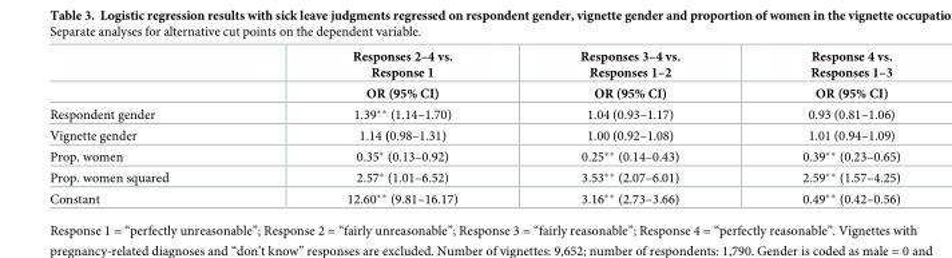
<table><thead><tr><td rowspan="2"></td><td rowspan="2">Responses 2–4 vs. Response 1 OR (95% CI)</td><td rowspan="2">Responses 3–4 vs. Responses 1–2 OR (95% CI)</td><td rowspan="2">Response 4 vs. Responses 1–3 OR (95% CI)</td></tr><tr></tr></thead><tbody><tr><td>Respondent gender</td><td>1.39** (1.14–1.70)</td><td>1.04 (0.93–1.17)</td><td>0.93 (0.81–1.06)</td></tr><tr><td>Vignette gender</td><td>1.14 (0.98–1.31)</td><td>1.00 (0.92–1.08)</td><td>1.01 (0.94–1.09)</td></tr><tr><td>Prop. women</td><td>0.35* (0.13–0.92)</td><td>0.25** (0.14–0.43)</td><td>0.39** (0.23–0.65)</td></tr><tr><td>Prop. women squared</td><td>2.57* (1.01–6.52)</td><td>3.53** (2.07–6.01)</td><td>2.59** (1.57–4.25)</td></tr><tr><td>Constant</td><td>12.60** (9.81–16.17)</td><td>3.16** (2.73–3.66)</td><td>0.49** (0.42–0.56)</td></tr></tbody></table>